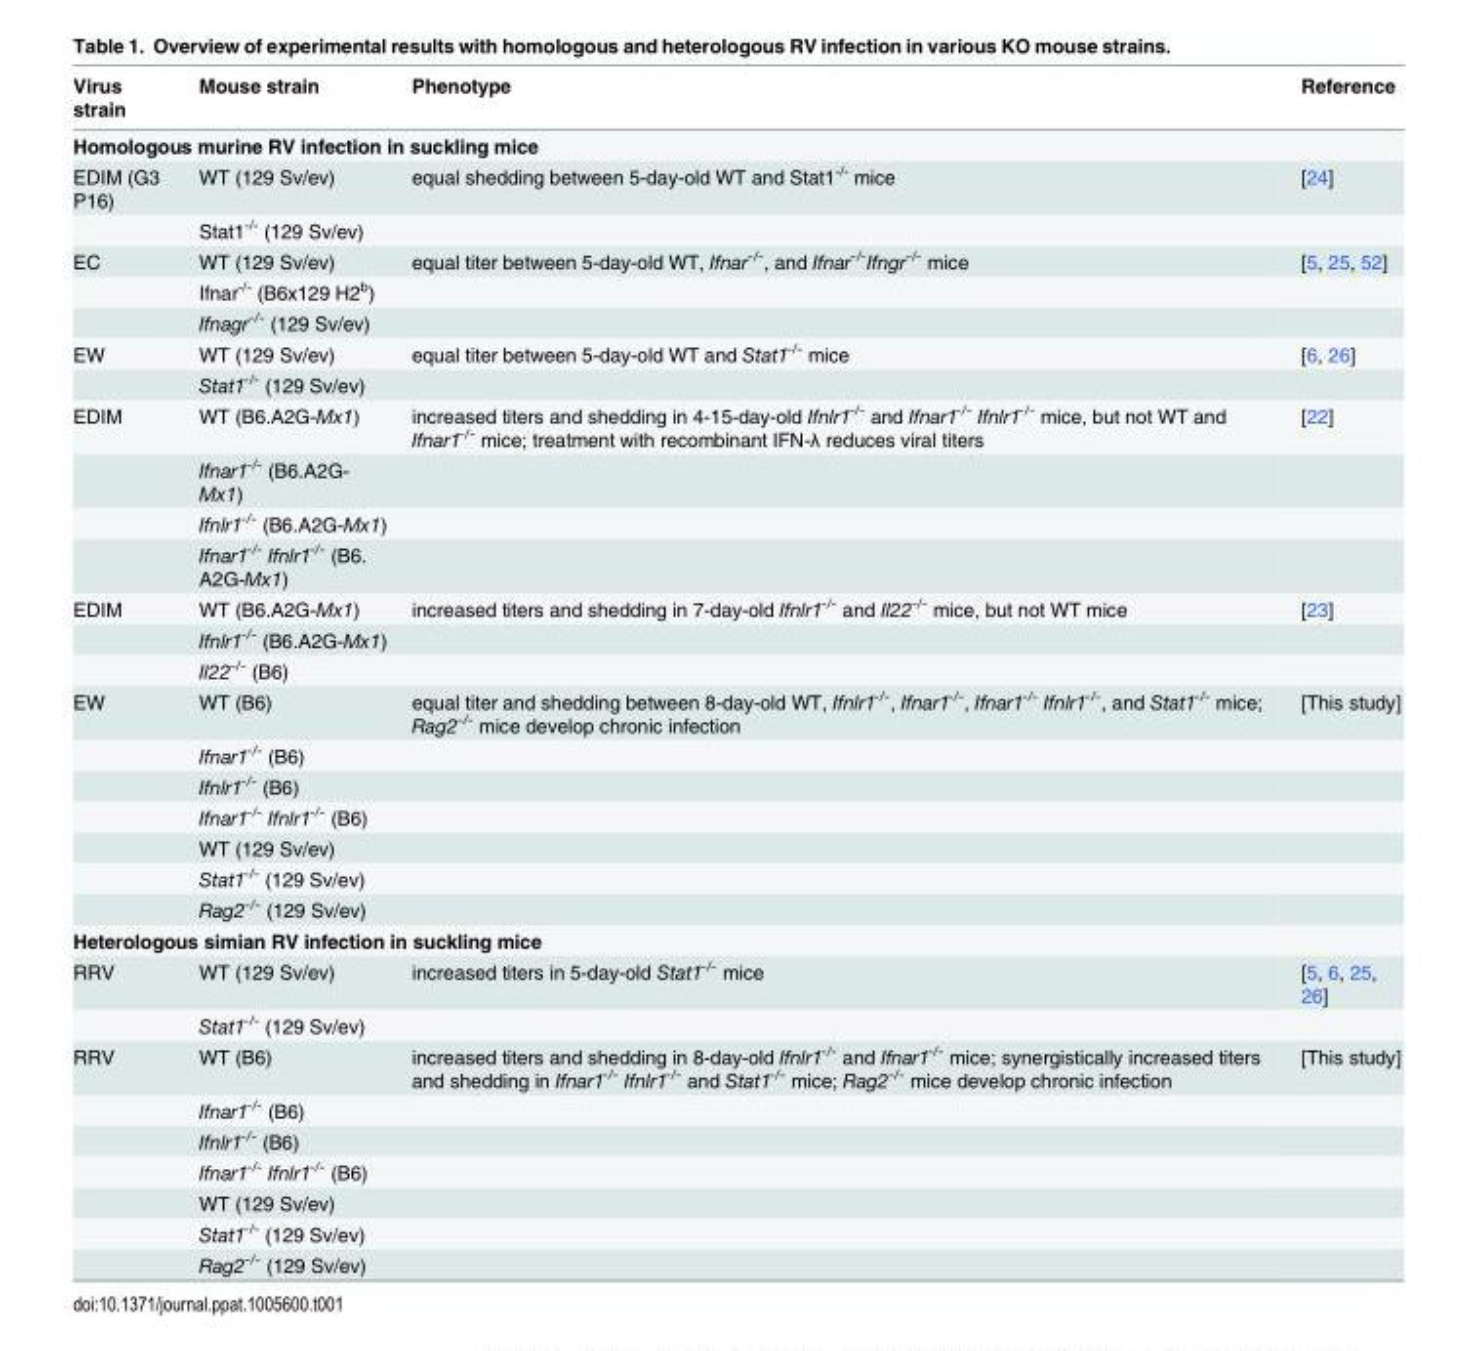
<table><thead><tr><td>Virus strain</td><td>Mouse strain</td><td>Phenotype</td><td>Reference</td></tr></thead><tbody><tr><td colspan="4">Homologous murine RV infection in suckling mice</td></tr><tr><td rowspan="2">EDIM (G3 P16)</td><td>WT (129 Sv/ev)</td><td>equal shedding between 5-day-old WT and Stat1<sup>-/-</sup> mice</td><td>[24]</td></tr><tr><td>Stat1<sup>-/-</sup> (129 Sv/ev)</td><td></td><td></td></tr><tr><td rowspan="3">EC</td><td>WT (129 Sv/ev)</td><td>equal titer between 5-day-old WT, Ifnar<sup>-/-</sup>, and Ifnar<sup>-/-</sup>Ifngr<sup>-/-</sup> mice</td><td>[5, 25, 52]</td></tr><tr><td>Ifnar<sup>-/-</sup> (B6x129 H2<sup>b</sup>)</td><td></td><td></td></tr><tr><td>Ifnagr<sup>-/-</sup> (129 Sv/ev)</td><td></td><td></td></tr><tr><td rowspan="2">EW</td><td>WT (129 Sv/ev)</td><td>equal titer between 5-day-old WT and Stat1<sup>-/-</sup> mice</td><td>[6, 26]</td></tr><tr><td>Stat1<sup>-/-</sup> (129 Sv/ev)</td><td></td><td></td></tr><tr><td rowspan="4">EDIM</td><td>WT (B6.A2G-Mx1)</td><td>increased titers and shedding in 4-15-day-old Ifnlr1<sup>-/-</sup> and Ifnar1<sup>-/-</sup> Ifnlr1<sup>-/-</sup> mice, but not WT and Ifnar1<sup>-/-</sup> mice; treatment with recombinant IFN-λ reduces viral titers</td><td>[22]</td></tr><tr><td>Ifnar1<sup>-/-</sup> (B6.A2G- Mx1)</td><td></td><td></td></tr><tr><td>Ifnlr1<sup>-/-</sup> (B6.A2G-Mx1)</td><td></td><td></td></tr><tr><td>Ifnar1<sup>-/-</sup> Ifnlr1<sup>-/-</sup> (B6. A2G-Mx1)</td><td></td><td></td></tr><tr><td rowspan="3">EDIM</td><td>WT (B6.A2G-Mx1)</td><td>increased titers and shedding in 7-day-old Ifnlr1<sup>-/-</sup> and Il22<sup>-/-</sup> mice, but not WT mice</td><td>[23]</td></tr><tr><td>Ifnlr1<sup>-/-</sup> (B6.A2G-Mx1)</td><td></td><td></td></tr><tr><td>Il22<sup>-/-</sup> (B6)</td><td></td><td></td></tr><tr><td rowspan="7">EW</td><td>WT (B6)</td><td>equal titer and shedding between 8-day-old WT, Ifnlr1<sup>-/-</sup>, Ifnar1<sup>-/-</sup>, Ifnar1<sup>-/-</sup> Ifnlr1<sup>-/-</sup>, and Stat1<sup>-/-</sup> mice; Rag2<sup>-/-</sup> mice develop chronic infection</td><td>[This study]</td></tr><tr><td>Ifnar1<sup>-/-</sup> (B6)</td><td></td><td></td></tr><tr><td>Ifnlr1<sup>-/-</sup> (B6)</td><td></td><td></td></tr><tr><td>Ifnar1<sup>-/-</sup> Ifnlr1<sup>-/-</sup> (B6)</td><td></td><td></td></tr><tr><td>WT (129 Sv/ev)</td><td></td><td></td></tr><tr><td>Stat1<sup>-/-</sup> (129 Sv/ev)</td><td></td><td></td></tr><tr><td>Rag2<sup>-/-</sup> (129 Sv/ev)</td><td></td><td></td></tr><tr><td colspan="4">Heterologous simian RV infection in suckling mice</td></tr><tr><td rowspan="2">RRV</td><td>WT (129 Sv/ev)</td><td>increased titers in 5-day-old Stat1<sup>-/-</sup> mice</td><td>[5, 6, 25, 26]</td></tr><tr><td>Stat1<sup>-/-</sup> (129 Sv/ev)</td><td></td><td></td></tr><tr><td rowspan="7">RRV</td><td>WT (B6)</td><td>increased titers and shedding in 8-day-old Ifnlr1<sup>-/-</sup> and Ifnar1<sup>-/-</sup> mice; synergistically increased titers and shedding in Ifnar1<sup>-/-</sup> Ifnlr1<sup>-/-</sup> and Stat1<sup>-/-</sup> mice; Rag2<sup>-/-</sup> mice develop chronic infection</td><td>[This study]</td></tr><tr><td>Ifnar1<sup>-/-</sup> (B6)</td><td></td><td></td></tr><tr><td>Ifnlr1<sup>-/-</sup> (B6)</td><td></td><td></td></tr><tr><td>Ifnar1<sup>-/-</sup> Ifnlr1<sup>-/-</sup> (B6)</td><td></td><td></td></tr><tr><td>WT (129 Sv/ev)</td><td></td><td></td></tr><tr><td>Stat1<sup>-/-</sup> (129 Sv/ev)</td><td></td><td></td></tr><tr><td>Rag2<sup>-/-</sup> (129 Sv/ev)</td><td></td><td></td></tr></tbody></table>